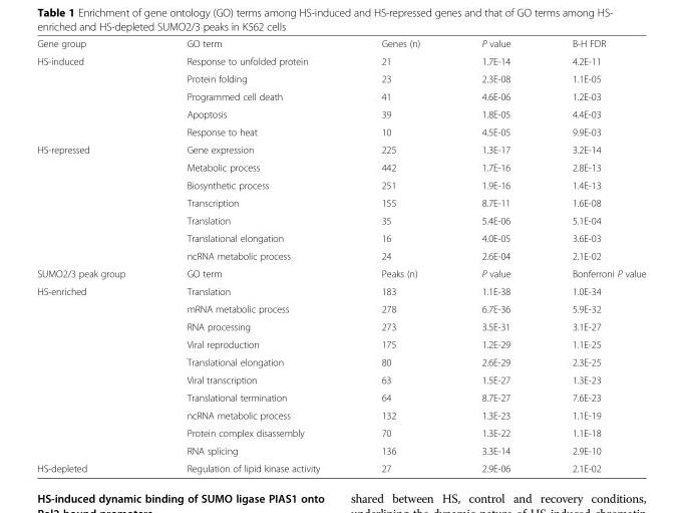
<table><tbody><tr><td>Gene group</td><td>GO term</td><td>Genes (n)</td><td>P value</td><td>B-H FDR</td></tr><tr><td rowspan="5">HS-induced</td><td>Response to unfolded protein</td><td>21</td><td>1.7E-14</td><td>4.2E-11</td></tr><tr><td>Protein folding</td><td>23</td><td>2.3E-08</td><td>1.1E-05</td></tr><tr><td>Programmed cell death</td><td>41</td><td>4.6E-06</td><td>1.2E-03</td></tr><tr><td>Apoptosis</td><td>39</td><td>1.8E-05</td><td>4.4E-03</td></tr><tr><td>Response to heat</td><td>10</td><td>4.5E-05</td><td>9.9E-03</td></tr><tr><td rowspan="7">HS-repressed</td><td>Gene expression</td><td>225</td><td>1.3E-17</td><td>3.2E-14</td></tr><tr><td>Metabolic process</td><td>442</td><td>1.7E-16</td><td>2.8E-13</td></tr><tr><td>Biosynthetic process</td><td>251</td><td>1.9E-16</td><td>1.4E-13</td></tr><tr><td>Transcription</td><td>155</td><td>8.7E-11</td><td>1.6E-08</td></tr><tr><td>Translation</td><td>35</td><td>5.4E-06</td><td>5.1E-04</td></tr><tr><td>Translational elongation</td><td>16</td><td>4.0E-05</td><td>3.6E-03</td></tr><tr><td>ncRNA metabolic process</td><td>24</td><td>2.6E-04</td><td>2.1E-02</td></tr><tr><td>SUMO2/3 peak group</td><td>GO term</td><td>Peaks (n)</td><td>P value</td><td>Bonferroni P value</td></tr><tr><td rowspan="10">HS-enriched</td><td>Translation</td><td>183</td><td>1.1E-38</td><td>1.0E-34</td></tr><tr><td>mRNA metabolic process</td><td>278</td><td>6.7E-36</td><td>5.9E-32</td></tr><tr><td>RNA processing</td><td>273</td><td>3.5E-31</td><td>3.1E-27</td></tr><tr><td>Viral reproduction</td><td>175</td><td>1.2E-29</td><td>1.1E-25</td></tr><tr><td>Translational elongation</td><td>80</td><td>2.6E-29</td><td>2.3E-25</td></tr><tr><td>Viral transcription</td><td>63</td><td>1.5E-27</td><td>1.3E-23</td></tr><tr><td>Translational termination</td><td>64</td><td>8.7E-27</td><td>7.6E-23</td></tr><tr><td>ncRNA metabolic process</td><td>132</td><td>1.3E-23</td><td>1.1E-19</td></tr><tr><td>Protein complex disassembly</td><td>70</td><td>1.3E-22</td><td>1.1E-18</td></tr><tr><td>RNA splicing</td><td>136</td><td>3.3E-14</td><td>2.9E-10</td></tr><tr><td>HS-depleted</td><td>Regulation of lipid kinase activity</td><td>27</td><td>2.9E-06</td><td>2.1E-02</td></tr></tbody></table>